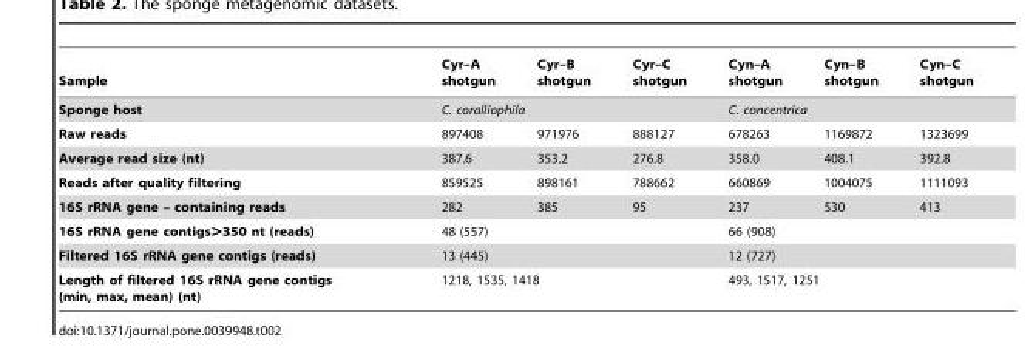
<table><thead><tr><td>Sample</td><td>Cyr–A shotgun</td><td>Cyr–B shotgun</td><td>Cyr–C shotgun</td><td>Cyn–A shotgun</td><td>Cyn–B shotgun</td><td>Cyn–C shotgun</td></tr></thead><tbody><tr><td>Sponge host</td><td colspan="3">C. coralliophila</td><td colspan="3">C. concentrica</td></tr><tr><td>Raw reads</td><td>897408</td><td>971976</td><td>888127</td><td>678263</td><td>1169872</td><td>1323699</td></tr><tr><td>Average read size (nt)</td><td>387.6</td><td>353.2</td><td>276.8</td><td>358.0</td><td>408.1</td><td>392.8</td></tr><tr><td>Reads after quality filtering</td><td>859525</td><td>898161</td><td>788662</td><td>660869</td><td>1004075</td><td>1111093</td></tr><tr><td>16S rRNA gene – containing reads</td><td>282</td><td>385</td><td>95</td><td>237</td><td>530</td><td>413</td></tr><tr><td>16S rRNA gene contigs&gt;350 nt (reads)</td><td colspan="3">48 (557)</td><td colspan="3">66 (908)</td></tr><tr><td>Filtered 16S rRNA gene contigs (reads)</td><td colspan="3">13 (445)</td><td colspan="3">12 (727)</td></tr><tr><td>Length of filtered 16S rRNA gene contigs (min, max, mean) (nt)</td><td colspan="3">1218, 1535, 1418</td><td colspan="3">493, 1517, 1251</td></tr></tbody></table>